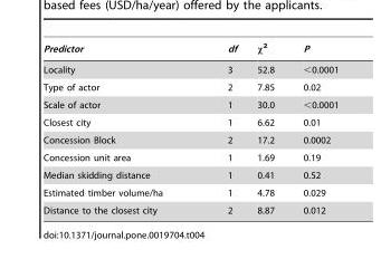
<table><thead><tr><td>Predictor</td><td>df</td><td>χ<sup>2</sup></td><td>P</td></tr></thead><tbody><tr><td>Locality</td><td>3</td><td>52.8</td><td>&lt;0.0001</td></tr><tr><td>Type of actor</td><td>2</td><td>7.85</td><td>0.02</td></tr><tr><td>Scale of actor</td><td>1</td><td>30.0</td><td>&lt;0.0001</td></tr><tr><td>Closest city</td><td>1</td><td>6.62</td><td>0.01</td></tr><tr><td>Concession Block</td><td>2</td><td>17.2</td><td>0.0002</td></tr><tr><td>Concession unit area</td><td>1</td><td>1.69</td><td>0.19</td></tr><tr><td>Median skidding distance</td><td>1</td><td>0.41</td><td>0.52</td></tr><tr><td>Estimated timber volume/ha</td><td>1</td><td>4.78</td><td>0.029</td></tr><tr><td>Distance to the closest city</td><td>2</td><td>8.87</td><td>0.012</td></tr></tbody></table>